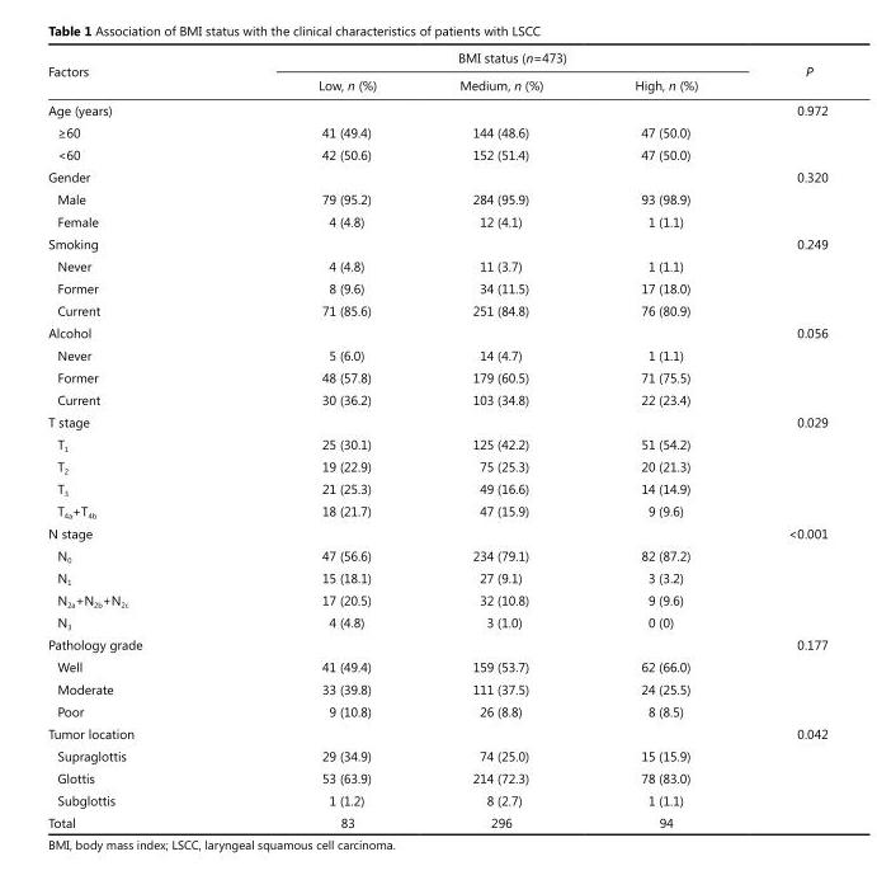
<table><thead><tr><td rowspan="2">Factors</td><td colspan="3">BMI status (n=473)</td><td rowspan="2">P</td></tr><tr><td>Low, n (%)</td><td>Medium, n (%)</td><td>High, n (%)</td></tr></thead><tbody><tr><td>Age (years)</td><td></td><td></td><td></td><td>0.972</td></tr><tr><td>≥60</td><td>41 (49.4)</td><td>144 (48.6)</td><td>47 (50.0)</td><td></td></tr><tr><td>&lt;60</td><td>42 (50.6)</td><td>152 (51.4)</td><td>47 (50.0)</td><td></td></tr><tr><td>Gender</td><td></td><td></td><td></td><td>0.320</td></tr><tr><td>Male</td><td>79 (95.2)</td><td>284 (95.9)</td><td>93 (98.9)</td><td></td></tr><tr><td>Female</td><td>4 (4.8)</td><td>12 (4.1)</td><td>1 (1.1)</td><td></td></tr><tr><td>Smoking</td><td></td><td></td><td></td><td>0.249</td></tr><tr><td>Never</td><td>4 (4.8)</td><td>11 (3.7)</td><td>1 (1.1)</td><td></td></tr><tr><td>Former</td><td>8 (9.6)</td><td>34 (11.5)</td><td>17 (18.0)</td><td></td></tr><tr><td>Current</td><td>71 (85.6)</td><td>251 (84.8)</td><td>76 (80.9)</td><td></td></tr><tr><td>Alcohol</td><td></td><td></td><td></td><td>0.056</td></tr><tr><td>Never</td><td>5 (6.0)</td><td>14 (4.7)</td><td>1 (1.1)</td><td></td></tr><tr><td>Former</td><td>48 (57.8)</td><td>179 (60.5)</td><td>71 (75.5)</td><td></td></tr><tr><td>Current</td><td>30 (36.2)</td><td>103 (34.8)</td><td>22 (23.4)</td><td></td></tr><tr><td>T stage</td><td></td><td></td><td></td><td>0.029</td></tr><tr><td>T<sub>1</sub></td><td>25 (30.1)</td><td>125 (42.2)</td><td>51 (54.2)</td><td></td></tr><tr><td>T<sub>2</sub></td><td>19 (22.9)</td><td>75 (25.3)</td><td>20 (21.3)</td><td></td></tr><tr><td>T<sub>3</sub></td><td>21 (25.3)</td><td>49 (16.6)</td><td>14 (14.9)</td><td></td></tr><tr><td>T<sub>4a</sub>+T<sub>4b</sub></td><td>18 (21.7)</td><td>47 (15.9)</td><td>9 (9.6)</td><td></td></tr><tr><td>N stage</td><td></td><td></td><td></td><td>&lt;0.001</td></tr><tr><td>N<sub>0</sub></td><td>47 (56.6)</td><td>234 (79.1)</td><td>82 (87.2)</td><td></td></tr><tr><td>N<sub>1</sub></td><td>15 (18.1)</td><td>27 (9.1)</td><td>3 (3.2)</td><td></td></tr><tr><td>N<sub>2a</sub>+N<sub>2b</sub>+N<sub>2c</sub></td><td>17 (20.5)</td><td>32 (10.8)</td><td>9 (9.6)</td><td></td></tr><tr><td>N<sub>3</sub></td><td>4 (4.8)</td><td>3 (1.0)</td><td>0 (0)</td><td></td></tr><tr><td>Pathology grade</td><td></td><td></td><td></td><td>0.177</td></tr><tr><td>Well</td><td>41 (49.4)</td><td>159 (53.7)</td><td>62 (66.0)</td><td></td></tr><tr><td>Moderate</td><td>33 (39.8)</td><td>111 (37.5)</td><td>24 (25.5)</td><td></td></tr><tr><td>Poor</td><td>9 (10.8)</td><td>26 (8.8)</td><td>8 (8.5)</td><td></td></tr><tr><td>Tumor location</td><td></td><td></td><td></td><td>0.042</td></tr><tr><td>Supraglottis</td><td>29 (34.9)</td><td>74 (25.0)</td><td>15 (15.9)</td><td></td></tr><tr><td>Glottis</td><td>53 (63.9)</td><td>214 (72.3)</td><td>78 (83.0)</td><td></td></tr><tr><td>Subglottis</td><td>1 (1.2)</td><td>8 (2.7)</td><td>1 (1.1)</td><td></td></tr><tr><td>Total</td><td>83</td><td>296</td><td>94</td><td></td></tr></tbody></table>